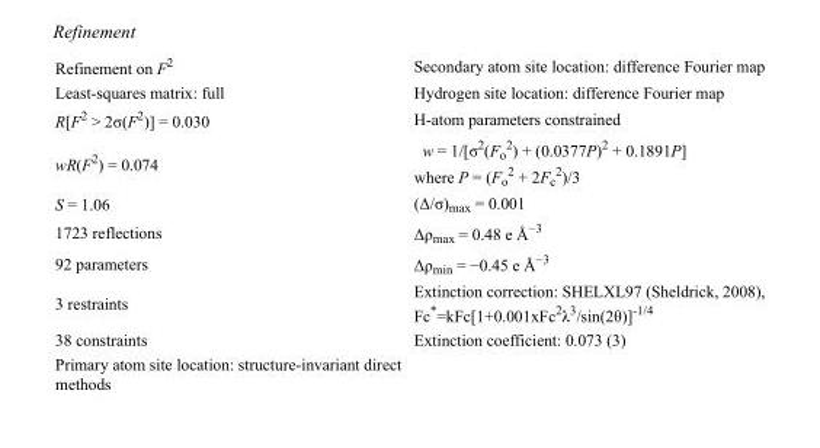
<table><tbody><tr><td>Refinement on F<sup>2</sup></td><td>Secondary atom site location: difference Fourier map</td></tr><tr><td>Least-squares matrix: full</td><td>Hydrogen site location: difference Fourier map</td></tr><tr><td>R[F<sup>2</sup> &gt; 2σ(F<sup>2</sup>)] = 0.030</td><td>H-atom parameters constrained</td></tr><tr><td>wR(F<sup>2</sup>) = 0.074</td><td>w = 1/[σ<sup>2</sup>(F<sub>o</sub> <sup>2</sup>) + (0.0377P)<sup>2</sup> + 0.1891P] where P = (F<sub>o</sub> <sup>2</sup> + 2F<sub>c</sub> <sup>2</sup>)/3</td></tr><tr><td>S = 1.06</td><td>(Δ/σ)<sub>max</sub> = 0.001</td></tr><tr><td>1723 reflections</td><td>Δρ<sub>max</sub> = 0.48 e Å<sup>−3</sup></td></tr><tr><td>92 parameters</td><td>Δρ<sub>min</sub> = −0.45 e Å<sup>−3</sup></td></tr><tr><td>3 restraints</td><td>Extinction correction: SHELXL97 (Sheldrick, 2008), Fc*=kFc[1+0.001xFc<sup>2</sup>λ<sup>3</sup>/sin(2θ)]<sup>-1/4</sup></td></tr><tr><td>38 constraints</td><td>Extinction coefficient: 0.073 (3)</td></tr><tr><td>Primary atom site location: structure-invariant direct methods</td><td></td></tr></tbody></table>